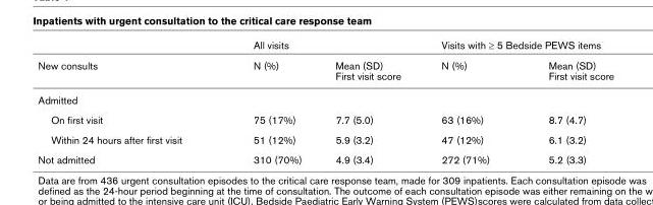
<table><thead><tr><td rowspan="2">New consults</td><td colspan="2">All visits</td><td colspan="2">Visits with ≥ 5 Bedside PEWS items</td></tr><tr><td>N (%)</td><td>Mean (SD) First visit score</td><td>N (%)</td><td>Mean (SD) First visit score</td></tr></thead><tbody><tr><td colspan="5">Admitted</td></tr><tr><td>On first visit</td><td>75 (17%)</td><td>7.7 (5.0)</td><td>63 (16%)</td><td>8.7 (4.7)</td></tr><tr><td>Within 24 hours after first visit</td><td>51 (12%)</td><td>5.9 (3.2)</td><td>47 (12%)</td><td>6.1 (3.2)</td></tr><tr><td>Not admitted</td><td>310 (70%)</td><td>4.9 (3.4)</td><td>272 (71%)</td><td>5.2 (3.3)</td></tr></tbody></table>